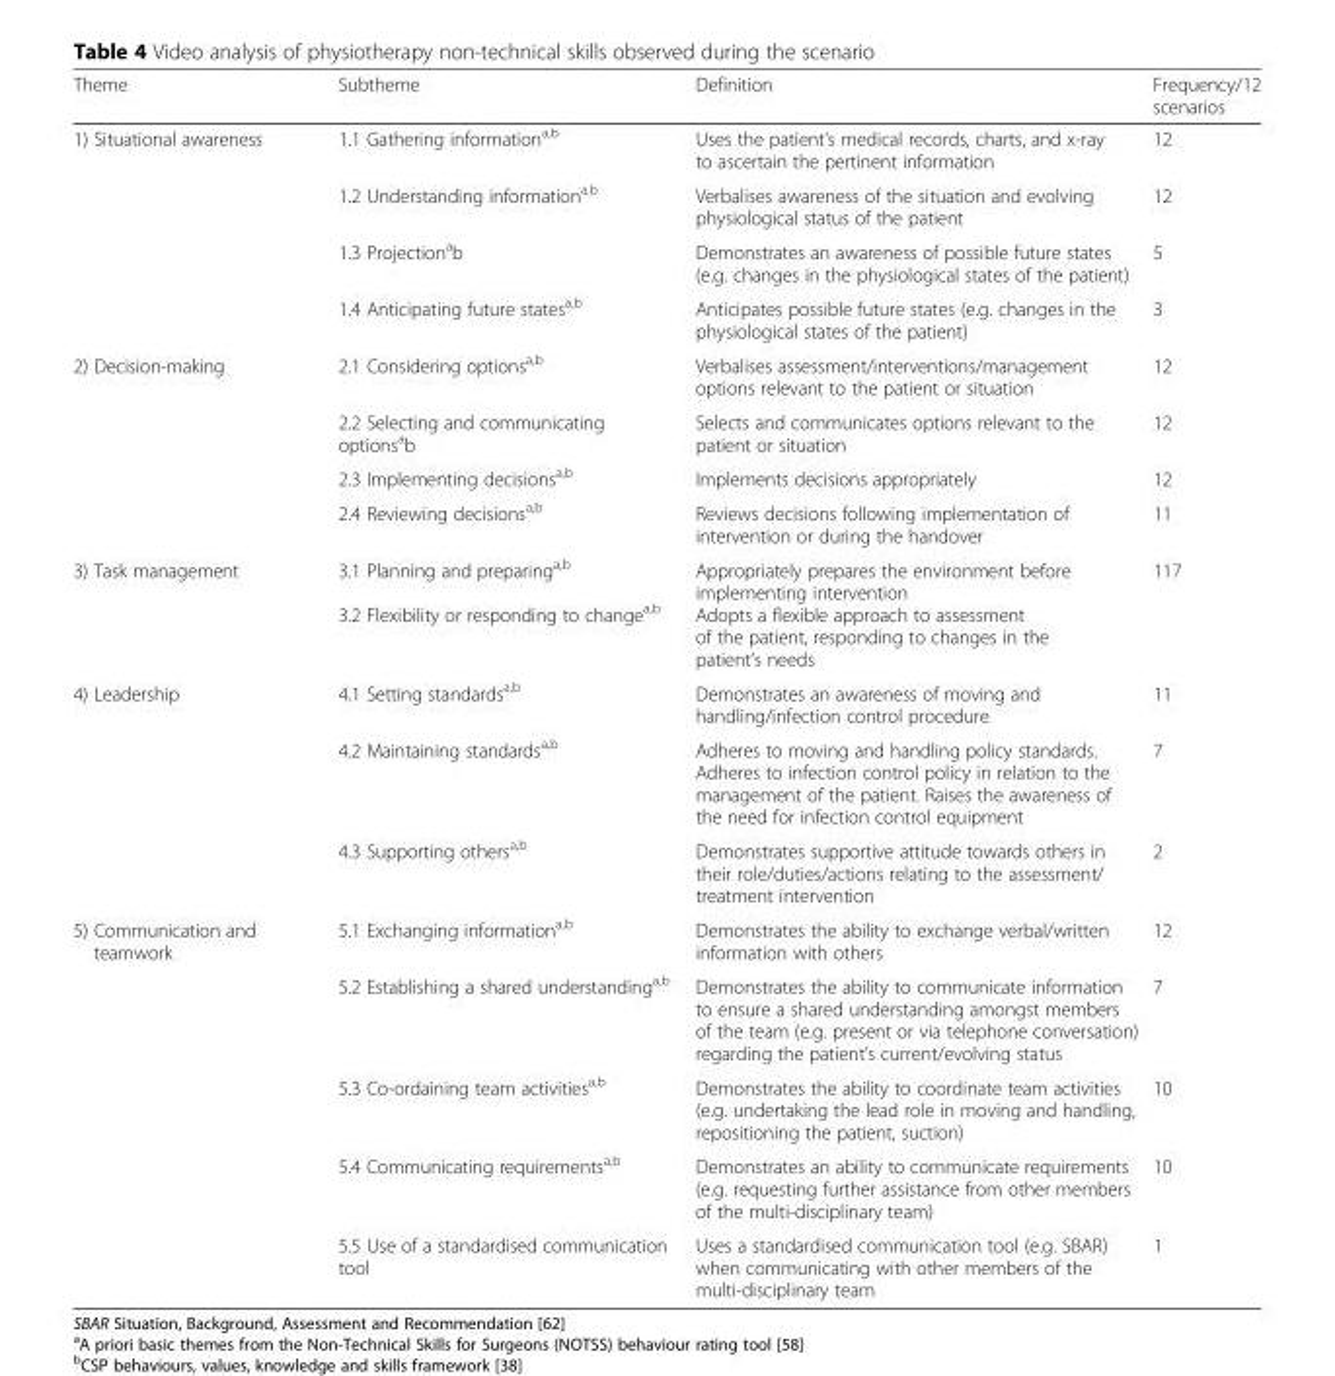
<table><thead><tr><td>Theme</td><td>Subtheme</td><td>Definition</td><td>Frequency/12 scenarios</td></tr></thead><tbody><tr><td rowspan="4">1) Situational awareness</td><td>1.1 Gathering information<sup>a,b</sup></td><td>Uses the patient’s medical records, charts, and x-ray to ascertain the pertinent information</td><td>12</td></tr><tr><td>1.2 Understanding information<sup>a,b</sup></td><td>Verbalises awareness of the situation and evolving physiological status of the patient</td><td>12</td></tr><tr><td>1.3 Projection<sup>a</sup>b</td><td>Demonstrates an awareness of possible future states (e.g. changes in the physiological states of the patient)</td><td>5</td></tr><tr><td>1.4 Anticipating future states<sup>a,b</sup></td><td>Anticipates possible future states (e.g. changes in the physiological states of the patient)</td><td>3</td></tr><tr><td rowspan="4">2) Decision-making</td><td>2.1 Considering options<sup>a,b</sup></td><td>Verbalises assessment/interventions/management options relevant to the patient or situation</td><td>12</td></tr><tr><td>2.2 Selecting and communicating options<sup>a</sup>b</td><td>Selects and communicates options relevant to the patient or situation</td><td>12</td></tr><tr><td>2.3 Implementing decisions<sup>a,b</sup></td><td>Implements decisions appropriately</td><td>12</td></tr><tr><td>2.4 Reviewing decisions<sup>a,b</sup></td><td>Reviews decisions following implementation of intervention or during the handover</td><td>11</td></tr><tr><td>3) Task management</td><td>3.1 Planning and preparing<sup>a,b</sup> 3.2 Flexibility or responding to change<sup>a,b</sup></td><td>Appropriately prepares the environment before implementing intervention Adopts a flexible approach to assessment of the patient, responding to changes in the patient’s needs</td><td>117</td></tr><tr><td rowspan="3">4) Leadership</td><td>4.1 Setting standards<sup>a,b</sup></td><td>Demonstrates an awareness of moving and handling/infection control procedure</td><td>11</td></tr><tr><td>4.2 Maintaining standards<sup>a,b</sup></td><td>Adheres to moving and handling policy standards. Adheres to infection control policy in relation to the management of the patient. Raises the awareness of the need for infection control equipment</td><td>7</td></tr><tr><td>4.3 Supporting others<sup>a,b</sup></td><td>Demonstrates supportive attitude towards others in their role/duties/actions relating to the assessment/ treatment intervention</td><td>2</td></tr><tr><td rowspan="5">5) Communication and teamwork</td><td>5.1 Exchanging information<sup>a,b</sup></td><td>Demonstrates the ability to exchange verbal/written information with others</td><td>12</td></tr><tr><td>5.2 Establishing a shared understanding<sup>a,b</sup></td><td>Demonstrates the ability to communicate information to ensure a shared understanding amongst members of the team (e.g. present or via telephone conversation) regarding the patient’s current/evolving status</td><td>7</td></tr><tr><td>5.3 Co-ordaining team activities<sup>a,b</sup></td><td>Demonstrates the ability to coordinate team activities (e.g. undertaking the lead role in moving and handling, repositioning the patient, suction)</td><td>10</td></tr><tr><td>5.4 Communicating requirements<sup>a,b</sup></td><td>Demonstrates an ability to communicate requirements (e.g. requesting further assistance from other members of the multi-disciplinary team)</td><td>10</td></tr><tr><td>5.5 Use of a standardised communication tool</td><td>Uses a standardised communication tool (e.g. SBAR) when communicating with other members of the multi-disciplinary team</td><td>1</td></tr></tbody></table>